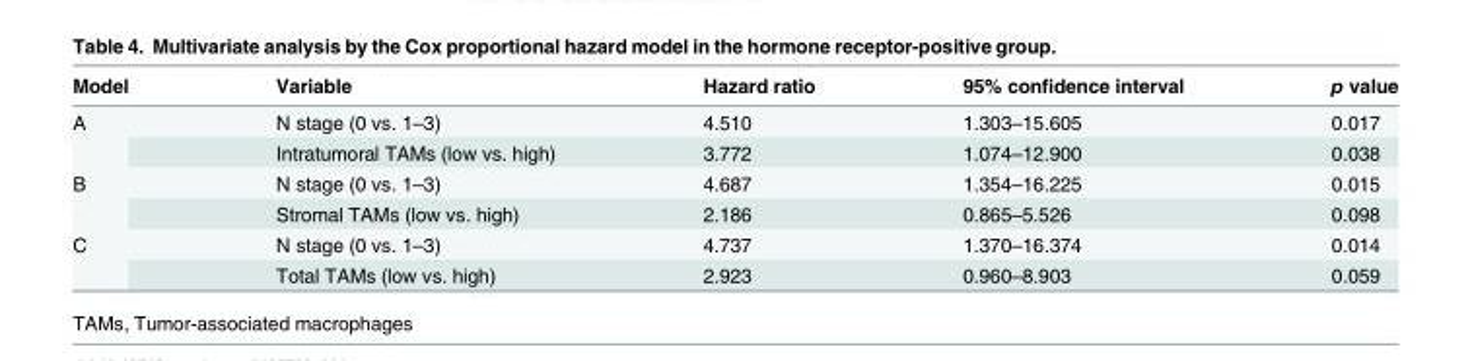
<table><thead><tr><td>Model</td><td>Variable</td><td>Hazard ratio</td><td>95% confidence interval</td><td>p value</td></tr></thead><tbody><tr><td rowspan="2">A</td><td>N stage (0 vs. 1–3)</td><td>4.510</td><td>1.303–15.605</td><td>0.017</td></tr><tr><td>Intratumoral TAMs (low vs. high)</td><td>3.772</td><td>1.074–12.900</td><td>0.038</td></tr><tr><td rowspan="2">B</td><td>N stage (0 vs. 1–3)</td><td>4.687</td><td>1.354–16.225</td><td>0.015</td></tr><tr><td>Stromal TAMs (low vs. high)</td><td>2.186</td><td>0.865–5.526</td><td>0.098</td></tr><tr><td rowspan="2">C</td><td>N stage (0 vs. 1–3)</td><td>4.737</td><td>1.370–16.374</td><td>0.014</td></tr><tr><td>Total TAMs (low vs. high)</td><td>2.923</td><td>0.960–8.903</td><td>0.059</td></tr></tbody></table>